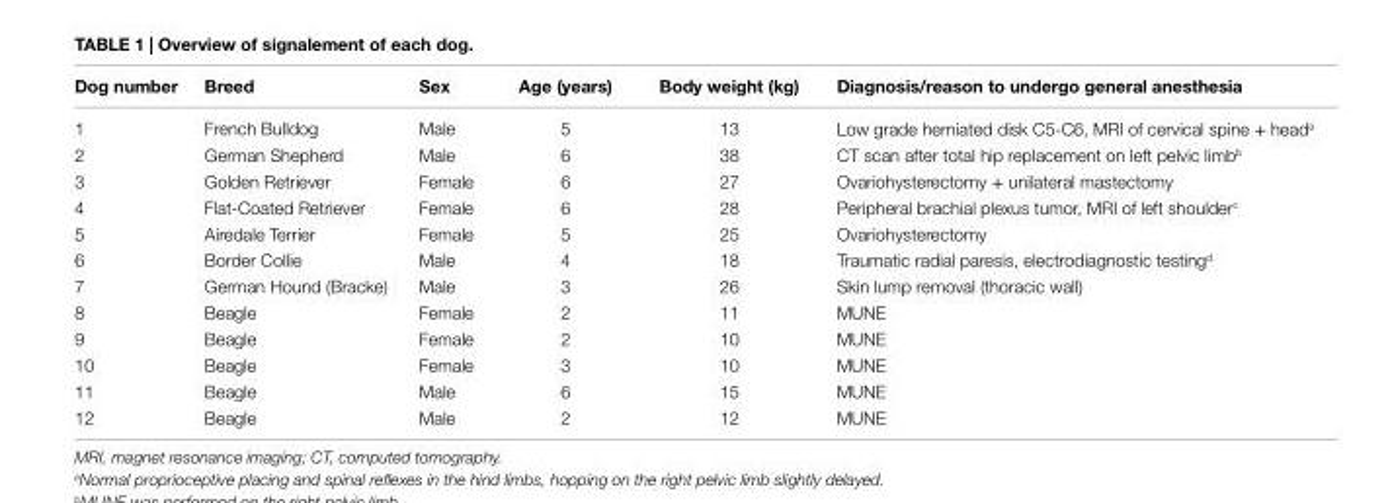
<table><thead><tr><td>dog number</td><td>Breed</td><td>sex</td><td>Age (years)</td><td>Body weight (kg)</td><td>diagnosis/reason to undergo general anesthesia</td></tr></thead><tbody><tr><td>1</td><td>French Bulldog</td><td>Male</td><td>5</td><td>13</td><td>Low grade herniated disk C5-C6, MRI of cervical spine + head<sup>a</sup></td></tr><tr><td>2</td><td>German Shepherd</td><td>Male</td><td>6</td><td>38</td><td>CT scan after total hip replacement on left pelvic limb<sup>b</sup></td></tr><tr><td>3</td><td>Golden Retriever</td><td>Female</td><td>6</td><td>27</td><td>Ovariohysterectomy + unilateral mastectomy</td></tr><tr><td>4</td><td>Flat-Coated Retriever</td><td>Female</td><td>6</td><td>28</td><td>Peripheral brachial plexus tumor, MRI of left shoulder<sup>c</sup></td></tr><tr><td>5</td><td>Airedale Terrier</td><td>Female</td><td>5</td><td>25</td><td>Ovariohysterectomy</td></tr><tr><td>6</td><td>Border Collie</td><td>Male</td><td>4</td><td>18</td><td>Traumatic radial paresis, electrodiagnostic testing<sup>d</sup></td></tr><tr><td>7</td><td>German Hound (Bracke)</td><td>Male</td><td>3</td><td>26</td><td>Skin lump removal (thoracic wall)</td></tr><tr><td>8</td><td>Beagle</td><td>Female</td><td>2</td><td>11</td><td>MUNE</td></tr><tr><td>9</td><td>Beagle</td><td>Female</td><td>2</td><td>10</td><td>MUNE</td></tr><tr><td>10</td><td>Beagle</td><td>Female</td><td>3</td><td>10</td><td>MUNE</td></tr><tr><td>11</td><td>Beagle</td><td>Male</td><td>6</td><td>15</td><td>MUNE</td></tr><tr><td>12</td><td>Beagle</td><td>Male</td><td>2</td><td>12</td><td>MUNE</td></tr></tbody></table>